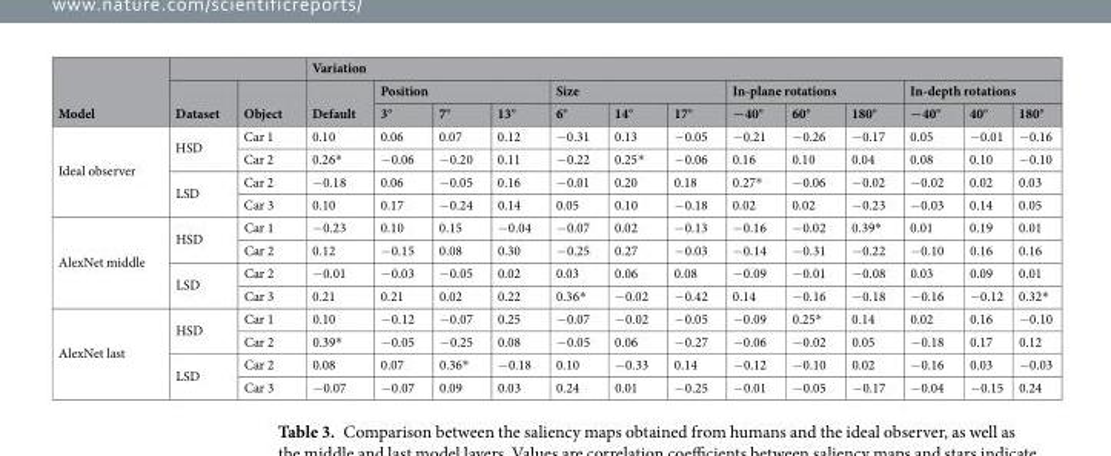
<table><thead><tr><td rowspan="3">Model</td><td rowspan="3">Dataset</td><td rowspan="3">Object</td><td colspan="13">Variation</td></tr><tr><td rowspan="2">Default</td><td colspan="3">Position</td><td colspan="3">Size</td><td colspan="3">In-plane rotations</td><td colspan="3">In-depth rotations</td></tr><tr><td>3°</td><td>7°</td><td>13°</td><td>6°</td><td>14°</td><td>17°</td><td>−40°</td><td>60°</td><td>180°</td><td>−40°</td><td>40°</td><td>180°</td></tr></thead><tbody><tr><td rowspan="4">Ideal observer</td><td rowspan="2">HSD</td><td>Car 1</td><td>0.10</td><td>0.06</td><td>0.07</td><td>0.12</td><td>−0.31</td><td>0.13</td><td>−0.05</td><td>−0.21</td><td>−0.26</td><td>−0.17</td><td>0.05</td><td>−0.01</td><td>−0.16</td></tr><tr><td>Car 2</td><td>0.26*</td><td>−0.06</td><td>−0.20</td><td>0.11</td><td>−0.22</td><td>0.25*</td><td>−0.06</td><td>0.16</td><td>0.10</td><td>0.04</td><td>0.08</td><td>0.10</td><td>−0.10</td></tr><tr><td rowspan="2">LSD</td><td>Car 2</td><td>−0.18</td><td>0.06</td><td>−0.05</td><td>0.16</td><td>−0.01</td><td>0.20</td><td>0.18</td><td>0.27*</td><td>−0.06</td><td>−0.02</td><td>−0.02</td><td>0.02</td><td>0.03</td></tr><tr><td>Car 3</td><td>0.10</td><td>0.17</td><td>−0.24</td><td>0.14</td><td>0.05</td><td>0.10</td><td>−0.18</td><td>0.02</td><td>0.02</td><td>−0.23</td><td>−0.03</td><td>0.14</td><td>0.05</td></tr><tr><td rowspan="4">AlexNet middle</td><td rowspan="2">HSD</td><td>Car 1</td><td>−0.23</td><td>0.10</td><td>0.15</td><td>−0.04</td><td>−0.07</td><td>0.02</td><td>−0.13</td><td>−0.16</td><td>−0.02</td><td>0.39*</td><td>0.01</td><td>0.19</td><td>0.01</td></tr><tr><td>Car 2</td><td>0.12</td><td>−0.15</td><td>0.08</td><td>0.30</td><td>−0.25</td><td>0.27</td><td>−0.03</td><td>−0.14</td><td>−0.31</td><td>−0.22</td><td>−0.10</td><td>0.16</td><td>0.16</td></tr><tr><td rowspan="2">LSD</td><td>Car 2</td><td>−0.01</td><td>−0.03</td><td>−0.05</td><td>0.02</td><td>0.03</td><td>0.06</td><td>0.08</td><td>−0.09</td><td>−0.01</td><td>−0.08</td><td>0.03</td><td>0.09</td><td>0.01</td></tr><tr><td>Car 3</td><td>0.21</td><td>0.21</td><td>0.02</td><td>0.22</td><td>0.36*</td><td>−0.02</td><td>−0.42</td><td>0.14</td><td>−0.16</td><td>−0.18</td><td>−0.16</td><td>−0.12</td><td>0.32*</td></tr><tr><td rowspan="4">AlexNet last</td><td rowspan="2">HSD</td><td>Car 1</td><td>0.10</td><td>−0.12</td><td>−0.07</td><td>0.25</td><td>−0.07</td><td>−0.02</td><td>−0.05</td><td>−0.09</td><td>0.25*</td><td>0.14</td><td>0.02</td><td>0.16</td><td>−0.10</td></tr><tr><td>Car 2</td><td>0.39*</td><td>−0.05</td><td>−0.25</td><td>0.08</td><td>−0.05</td><td>0.06</td><td>−0.27</td><td>−0.06</td><td>−0.02</td><td>0.05</td><td>−0.18</td><td>0.17</td><td>0.12</td></tr><tr><td rowspan="2">LSD</td><td>Car 2</td><td>0.08</td><td>0.07</td><td>0.36*</td><td>−0.18</td><td>0.10</td><td>−0.33</td><td>0.14</td><td>−0.12</td><td>−0.10</td><td>0.02</td><td>−0.16</td><td>0.03</td><td>−0.03</td></tr><tr><td>Car 3</td><td>−0.07</td><td>−0.07</td><td>0.09</td><td>0.03</td><td>0.24</td><td>0.01</td><td>−0.25</td><td>−0.01</td><td>−0.05</td><td>−0.17</td><td>−0.04</td><td>−0.15</td><td>0.24</td></tr></tbody></table>